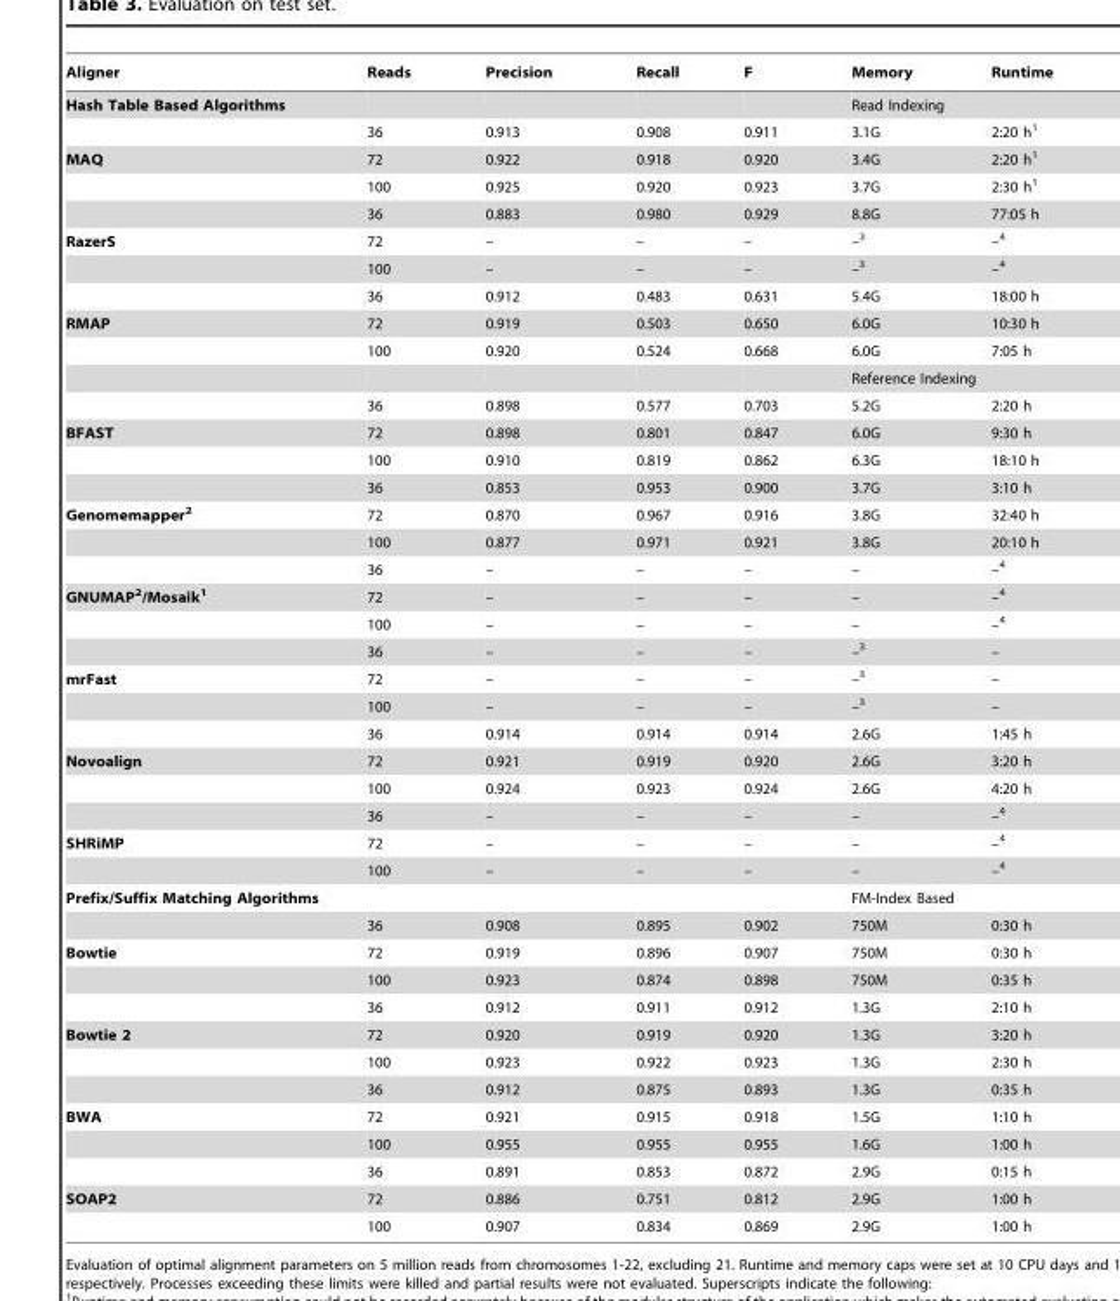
<table><thead><tr><td>Aligner</td><td>Reads</td><td>Precision</td><td>Recall</td><td>F</td><td>Memory</td><td>Runtime</td></tr></thead><tbody><tr><td rowspan="2">Hash Table Based Algorithms</td><td></td><td></td><td></td><td></td><td>Read Indexing</td><td></td></tr><tr><td>36</td><td>0.913</td><td>0.908</td><td>0.911</td><td>3.1G</td><td>2:20 h1</td></tr><tr><td rowspan="3">MAQ</td><td>72</td><td>0.922</td><td>0.918</td><td>0.920</td><td>3.4G</td><td>2:20 h1</td></tr><tr><td>100</td><td>0.925</td><td>0.920</td><td>0.923</td><td>3.7G</td><td>2:30 h1</td></tr><tr><td>36</td><td>0.883</td><td>0.980</td><td>0.929</td><td>8.8G</td><td>77:05 h</td></tr><tr><td rowspan="3">RazerS</td><td>72</td><td>–</td><td>–</td><td>–</td><td>–3</td><td>–4</td></tr><tr><td>100</td><td>–</td><td>–</td><td>–</td><td>–3</td><td>–4</td></tr><tr><td>36</td><td>0.912</td><td>0.483</td><td>0.631</td><td>5.4G</td><td>18:00 h</td></tr><tr><td rowspan="4">RMAP</td><td>72</td><td>0.919</td><td>0.503</td><td>0.650</td><td>6.0G</td><td>10:30 h</td></tr><tr><td>100</td><td>0.920</td><td>0.524</td><td>0.668</td><td>6.0G</td><td>7:05 h</td></tr><tr><td></td><td></td><td></td><td></td><td>Reference Indexing</td><td></td></tr><tr><td>36</td><td>0.898</td><td>0.577</td><td>0.703</td><td>5.2G</td><td>2:20 h</td></tr><tr><td rowspan="3">BFAST</td><td>72</td><td>0.898</td><td>0.801</td><td>0.847</td><td>6.0G</td><td>9:30 h</td></tr><tr><td>100</td><td>0.910</td><td>0.819</td><td>0.862</td><td>6.3G</td><td>18:10 h</td></tr><tr><td>36</td><td>0.853</td><td>0.953</td><td>0.900</td><td>3.7G</td><td>3:10 h</td></tr><tr><td rowspan="3">Genomemapper2</td><td>72</td><td>0.870</td><td>0.967</td><td>0.916</td><td>3.8G</td><td>32:40 h</td></tr><tr><td>100</td><td>0.877</td><td>0.971</td><td>0.921</td><td>3.8G</td><td>20:10 h</td></tr><tr><td>36</td><td>–</td><td>–</td><td>–</td><td>–</td><td>–4</td></tr><tr><td rowspan="3">GNUMAP2/Mosaik1</td><td>72</td><td>–</td><td>–</td><td>–</td><td>–</td><td>–4</td></tr><tr><td>100</td><td>–</td><td>–</td><td>–</td><td>–</td><td>–4</td></tr><tr><td>36</td><td>–</td><td>–</td><td>–</td><td>–3</td><td>–</td></tr><tr><td rowspan="3">mrFast</td><td>72</td><td>–</td><td>–</td><td>–</td><td>–3</td><td>–</td></tr><tr><td>100</td><td>–</td><td>–</td><td>–</td><td>–3</td><td>–</td></tr><tr><td>36</td><td>0.914</td><td>0.914</td><td>0.914</td><td>2.6G</td><td>1:45 h</td></tr><tr><td rowspan="3">Novoalign</td><td>72</td><td>0.921</td><td>0.919</td><td>0.920</td><td>2.6G</td><td>3:20 h</td></tr><tr><td>100</td><td>0.924</td><td>0.923</td><td>0.924</td><td>2.6G</td><td>4:20 h</td></tr><tr><td>36</td><td>–</td><td>–</td><td>–</td><td>–</td><td>–4</td></tr><tr><td rowspan="2">SHRiMP</td><td>72</td><td>–</td><td>–</td><td>–</td><td>–</td><td>–4</td></tr><tr><td>100</td><td>–</td><td>–</td><td>–</td><td>–</td><td>–4</td></tr><tr><td rowspan="2">Prefix/Suffix Matching Algorithms</td><td></td><td></td><td></td><td></td><td>FM-Index Based</td><td></td></tr><tr><td>36</td><td>0.908</td><td>0.895</td><td>0.902</td><td>750M</td><td>0:30 h</td></tr><tr><td rowspan="3">Bowtie</td><td>72</td><td>0.919</td><td>0.896</td><td>0.907</td><td>750M</td><td>0:30 h</td></tr><tr><td>100</td><td>0.923</td><td>0.874</td><td>0.898</td><td>750M</td><td>0:35 h</td></tr><tr><td>36</td><td>0.912</td><td>0.911</td><td>0.912</td><td>1.3G</td><td>2:10 h</td></tr><tr><td rowspan="3">Bowtie 2</td><td>72</td><td>0.920</td><td>0.919</td><td>0.920</td><td>1.3G</td><td>3:20 h</td></tr><tr><td>100</td><td>0.923</td><td>0.922</td><td>0.923</td><td>1.3G</td><td>2:30 h</td></tr><tr><td>36</td><td>0.912</td><td>0.875</td><td>0.893</td><td>1.3G</td><td>0:35 h</td></tr><tr><td rowspan="3">BWA</td><td>72</td><td>0.921</td><td>0.915</td><td>0.918</td><td>1.5G</td><td>1:10 h</td></tr><tr><td>100</td><td>0.955</td><td>0.955</td><td>0.955</td><td>1.6G</td><td>1:00 h</td></tr><tr><td>36</td><td>0.891</td><td>0.853</td><td>0.872</td><td>2.9G</td><td>0:15 h</td></tr><tr><td rowspan="2">SOAP2</td><td>72</td><td>0.886</td><td>0.751</td><td>0.812</td><td>2.9G</td><td>1:00 h</td></tr><tr><td>100</td><td>0.907</td><td>0.834</td><td>0.869</td><td>2.9G</td><td>1:00 h</td></tr></tbody></table>